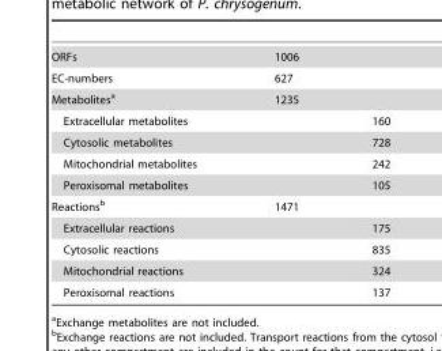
<table><tbody><tr><td>ORFs</td><td>1006</td></tr><tr><td>EC-numbers</td><td>627</td></tr><tr><td>Metabolites<sup>a</sup></td><td>1235</td></tr><tr><td>Extracellular metabolites</td><td>160</td></tr><tr><td>Cytosolic metabolites</td><td>728</td></tr><tr><td>Mitochondrial metabolites</td><td>242</td></tr><tr><td>Peroxisomal metabolites</td><td>105</td></tr><tr><td>Reactions<sup>b</sup></td><td>1471</td></tr><tr><td>Extracellular reactions</td><td>175</td></tr><tr><td>Cytosolic reactions</td><td>835</td></tr><tr><td>Mitochondrial reactions</td><td>324</td></tr><tr><td>Peroxisomal reactions</td><td>137</td></tr></tbody></table>